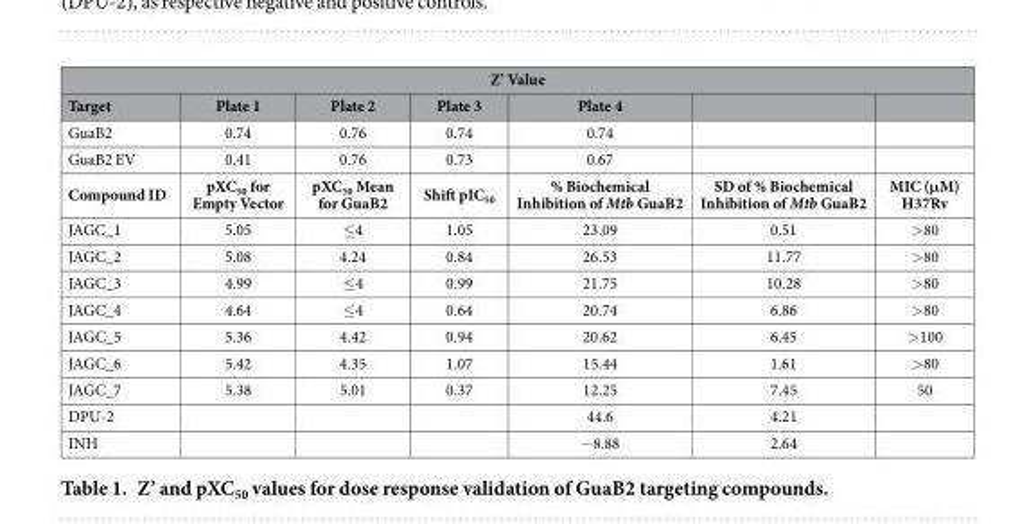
<table><thead><tr><td colspan="7">Z’ Value</td></tr><tr><td>Target</td><td>Plate 1</td><td>Plate 2</td><td>Plate 3</td><td>Plate 4</td><td></td><td></td></tr></thead><tbody><tr><td>GuaB2</td><td>0.74</td><td>0.76</td><td>0.74</td><td>0.74</td><td></td><td></td></tr><tr><td>GuaB2 EV</td><td>0.41</td><td>0.76</td><td>0.73</td><td>0.67</td><td></td><td></td></tr><tr><td>Compound ID</td><td>pXC<sub>50</sub> for Empty Vector</td><td>pXC<sub>50</sub> Mean for GuaB2</td><td>Shift pIC<sub>50</sub></td><td>% Biochemical Inhibition of Mtb GuaB2</td><td>SD of % Biochemical Inhibition of Mtb GuaB2</td><td>MIC (μM) H37Rv</td></tr><tr><td>JAGC_1</td><td>5.05</td><td>≤ 4</td><td>1.05</td><td>23.09</td><td>0.51</td><td>&gt; 80</td></tr><tr><td>JAGC_2</td><td>5.08</td><td>4.24</td><td>0.84</td><td>26.53</td><td>11.77</td><td>&gt; 80</td></tr><tr><td>JAGC_3</td><td>4.99</td><td>≤ 4</td><td>0.99</td><td>21.75</td><td>10.28</td><td>&gt; 80</td></tr><tr><td>JAGC_4</td><td>4.64</td><td>≤ 4</td><td>0.64</td><td>20.74</td><td>6.86</td><td>&gt; 80</td></tr><tr><td>JAGC_5</td><td>5.36</td><td>4.42</td><td>0.94</td><td>20.62</td><td>6.45</td><td>&gt; 100</td></tr><tr><td>JAGC_6</td><td>5.42</td><td>4.35</td><td>1.07</td><td>15.44</td><td>1.61</td><td>&gt; 80</td></tr><tr><td>JAGC_7</td><td>5.38</td><td>5.01</td><td>0.37</td><td>12.25</td><td>7.45</td><td>50</td></tr><tr><td>DPU-2</td><td></td><td></td><td></td><td>44.6</td><td>4.21</td><td></td></tr><tr><td>INH</td><td></td><td></td><td></td><td>− 8.88</td><td>2.64</td><td></td></tr></tbody></table>